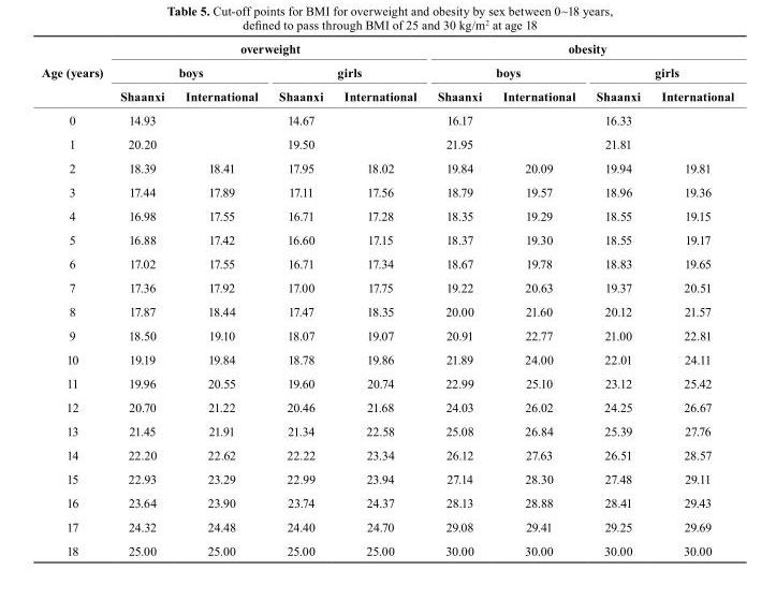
<table><thead><tr><td rowspan="3">Age (years)</td><td colspan="4">overweight</td><td colspan="4">obesity</td></tr><tr><td colspan="2">boys</td><td colspan="2">girls</td><td colspan="2">boys</td><td colspan="2">girls</td></tr><tr><td>shaanxi</td><td>International</td><td>shaanxi</td><td>International</td><td>shaanxi</td><td>International</td><td>shaanxi</td><td>International</td></tr></thead><tbody><tr><td>0</td><td>14.93</td><td></td><td>14.67</td><td></td><td>16.17</td><td></td><td>16.33</td><td></td></tr><tr><td>1</td><td>20.20</td><td></td><td>19.50</td><td></td><td>21.95</td><td></td><td>21.81</td><td></td></tr><tr><td>2</td><td>18.39</td><td>18.41</td><td>17.95</td><td>18.02</td><td>19.84</td><td>20.09</td><td>19.94</td><td>19.81</td></tr><tr><td>3</td><td>17.44</td><td>17.89</td><td>17.11</td><td>17.56</td><td>18.79</td><td>19.57</td><td>18.96</td><td>19.36</td></tr><tr><td>4</td><td>16.98</td><td>17.55</td><td>16.71</td><td>17.28</td><td>18.35</td><td>19.29</td><td>18.55</td><td>19.15</td></tr><tr><td>5</td><td>16.88</td><td>17.42</td><td>16.60</td><td>17.15</td><td>18.37</td><td>19.30</td><td>18.55</td><td>19.17</td></tr><tr><td>6</td><td>17.02</td><td>17.55</td><td>16.71</td><td>17.34</td><td>18.67</td><td>19.78</td><td>18.83</td><td>19.65</td></tr><tr><td>7</td><td>17.36</td><td>17.92</td><td>17.00</td><td>17.75</td><td>19.22</td><td>20.63</td><td>19.37</td><td>20.51</td></tr><tr><td>8</td><td>17.87</td><td>18.44</td><td>17.47</td><td>18.35</td><td>20.00</td><td>21.60</td><td>20.12</td><td>21.57</td></tr><tr><td>9</td><td>18.50</td><td>19.10</td><td>18.07</td><td>19.07</td><td>20.91</td><td>22.77</td><td>21.00</td><td>22.81</td></tr><tr><td>10</td><td>19.19</td><td>19.84</td><td>18.78</td><td>19.86</td><td>21.89</td><td>24.00</td><td>22.01</td><td>24.11</td></tr><tr><td>11</td><td>19.96</td><td>20.55</td><td>19.60</td><td>20.74</td><td>22.99</td><td>25.10</td><td>23.12</td><td>25.42</td></tr><tr><td>12</td><td>20.70</td><td>21.22</td><td>20.46</td><td>21.68</td><td>24.03</td><td>26.02</td><td>24.25</td><td>26.67</td></tr><tr><td>13</td><td>21.45</td><td>21.91</td><td>21.34</td><td>22.58</td><td>25.08</td><td>26.84</td><td>25.39</td><td>27.76</td></tr><tr><td>14</td><td>22.20</td><td>22.62</td><td>22.22</td><td>23.34</td><td>26.12</td><td>27.63</td><td>26.51</td><td>28.57</td></tr><tr><td>15</td><td>22.93</td><td>23.29</td><td>22.99</td><td>23.94</td><td>27.14</td><td>28.30</td><td>27.48</td><td>29.11</td></tr><tr><td>16</td><td>23.64</td><td>23.90</td><td>23.74</td><td>24.37</td><td>28.13</td><td>28.88</td><td>28.41</td><td>29.43</td></tr><tr><td>17</td><td>24.32</td><td>24.48</td><td>24.40</td><td>24.70</td><td>29.08</td><td>29.41</td><td>29.25</td><td>29.69</td></tr><tr><td>18</td><td>25.00</td><td>25.00</td><td>25.00</td><td>25.00</td><td>30.00</td><td>30.00</td><td>30.00</td><td>30.00</td></tr></tbody></table>